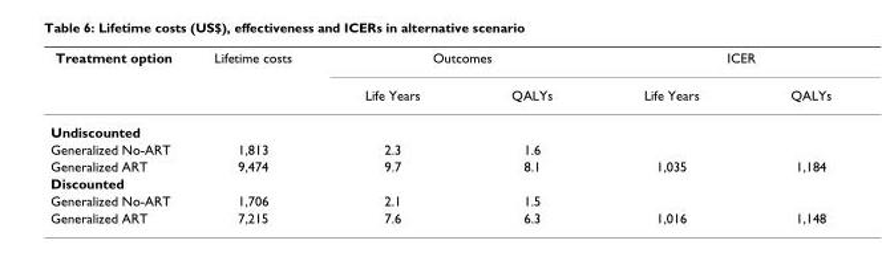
<table><thead><tr><td rowspan="2">Treatment option</td><td rowspan="2">Lifetime costs</td><td colspan="2">Outcomes</td><td colspan="2">ICER</td></tr><tr><td>Life Years</td><td>QALYs</td><td>Life Years</td><td>QALYs</td></tr></thead><tbody><tr><td colspan="6">Undiscounted</td></tr><tr><td>Generalized No-ART</td><td>1,813</td><td>2.3</td><td>1.6</td><td></td><td></td></tr><tr><td>Generalized ART</td><td>9,474</td><td>9.7</td><td>8.1</td><td>1,035</td><td>1,184</td></tr><tr><td colspan="6">Discounted</td></tr><tr><td>Generalized No-ART</td><td>1,706</td><td>2.1</td><td>1.5</td><td></td><td></td></tr><tr><td>Generalized ART</td><td>7,215</td><td>7.6</td><td>6.3</td><td>1,016</td><td>1,148</td></tr></tbody></table>